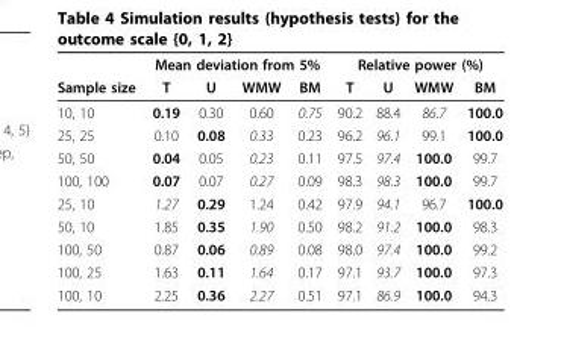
<table><thead><tr><td rowspan="2">Sample size</td><td colspan="4">Mean deviation from 5%</td><td colspan="4">Relative power (%)</td></tr><tr><td>T</td><td>U</td><td>WMW</td><td>BM</td><td>T</td><td>U</td><td>WMW</td><td>BM</td></tr></thead><tbody><tr><td>10, 10</td><td>0.19</td><td>0.30</td><td>0.60</td><td>0.75</td><td>90.2</td><td>88.4</td><td>86.7</td><td>100.0</td></tr><tr><td>25, 25</td><td>0.10</td><td>0.08</td><td>0.33</td><td>0.23</td><td>96.2</td><td>96.1</td><td>99.1</td><td>100.0</td></tr><tr><td>50, 50</td><td>0.04</td><td>0.05</td><td>0.23</td><td>0.11</td><td>97.5</td><td>97.4</td><td>100.0</td><td>99.7</td></tr><tr><td>100, 100</td><td>0.07</td><td>0.07</td><td>0.27</td><td>0.09</td><td>98.3</td><td>98.3</td><td>100.0</td><td>99.7</td></tr><tr><td>25, 10</td><td>1.27</td><td>0.29</td><td>1.24</td><td>0.42</td><td>97.9</td><td>94.1</td><td>96.7</td><td>100.0</td></tr><tr><td>50, 10</td><td>1.85</td><td>0.35</td><td>1.90</td><td>0.50</td><td>98.2</td><td>91.2</td><td>100.0</td><td>98.3</td></tr><tr><td>100, 50</td><td>0.87</td><td>0.06</td><td>0.89</td><td>0.08</td><td>98.0</td><td>97.4</td><td>100.0</td><td>99.2</td></tr><tr><td>100, 25</td><td>1.63</td><td>0.11</td><td>1.64</td><td>0.17</td><td>97.1</td><td>93.7</td><td>100.0</td><td>97.3</td></tr><tr><td>100, 10</td><td>2.25</td><td>0.36</td><td>2.27</td><td>0.51</td><td>97.1</td><td>86.9</td><td>100.0</td><td>94.3</td></tr></tbody></table>